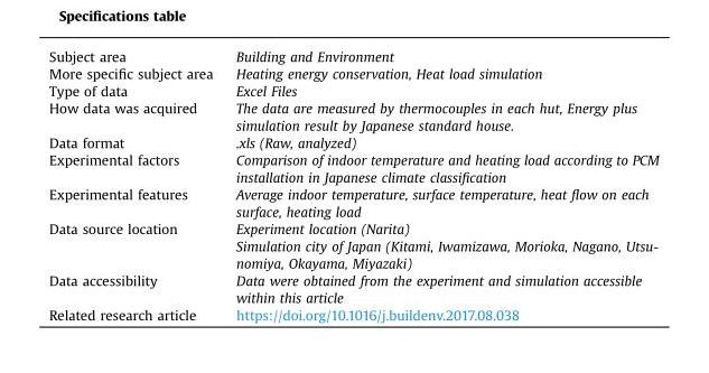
<table><tbody><tr><td>Subject area</td><td>Building and Environment</td></tr><tr><td>More specific subject area</td><td>Heating energy conservation, Heat load simulation</td></tr><tr><td>Type of data</td><td>Excel Files</td></tr><tr><td>How data was acquired</td><td>The data are measured by thermocouples in each hut, Energy plus simulation result by Japanese standard house.</td></tr><tr><td>Data format</td><td>.xls (Raw, analyzed)</td></tr><tr><td>Experimental factors</td><td>Comparison of indoor temperature and heating load according to PCM installation in Japanese climate classification</td></tr><tr><td>Experimental features</td><td>Average indoor temperature, surface temperature, heat flow on each surface, heating load</td></tr><tr><td rowspan="2">Data source location</td><td>Experiment location (Narita)</td></tr><tr><td>Simulation city of Japan (Kitami, Iwamizawa, Morioka, Nagano, Utsu- nomiya, Okayama, Miyazaki)</td></tr><tr><td>Data accessibility</td><td>Data were obtained from the experiment and simulation accessible within this article</td></tr><tr><td>Related research article</td><td>https://doi.org/10.1016/j.buildenv.2017.08.038</td></tr></tbody></table>